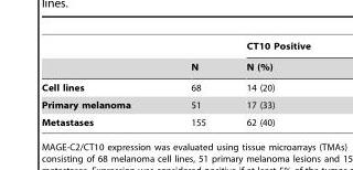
<table><thead><tr><td rowspan="2"></td><td rowspan="2">N</td><td rowspan="2">CT10 Positive N (%)</td></tr><tr></tr></thead><tbody><tr><td>Cell lines</td><td>68</td><td>14 (20)</td></tr><tr><td>Primary melanoma</td><td>51</td><td>17 (33)</td></tr><tr><td>Metastases</td><td>155</td><td>62 (40)</td></tr></tbody></table>